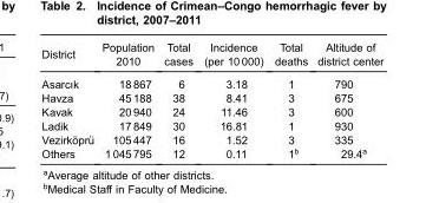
<table><thead><tr><td>District</td><td>Population 2010</td><td>Total cases</td><td>Incidence (per 10 000)</td><td>Total deaths</td><td>Altitude of district center</td></tr></thead><tbody><tr><td>Asarcık</td><td>18 867</td><td>6</td><td>3.18</td><td>1</td><td>790</td></tr><tr><td>Havza</td><td>45 188</td><td>38</td><td>8.41</td><td>3</td><td>675</td></tr><tr><td>Kavak</td><td>20 940</td><td>24</td><td>11.46</td><td>3</td><td>600</td></tr><tr><td>Ladik</td><td>17 849</td><td>30</td><td>16.81</td><td>1</td><td>930</td></tr><tr><td>Vezirköprü</td><td>105 447</td><td>16</td><td>1.52</td><td>3</td><td>335</td></tr><tr><td>Others</td><td>1 045 795</td><td>12</td><td>0.11</td><td>1<sup>b</sup></td><td>29.4<sup>a</sup></td></tr></tbody></table>